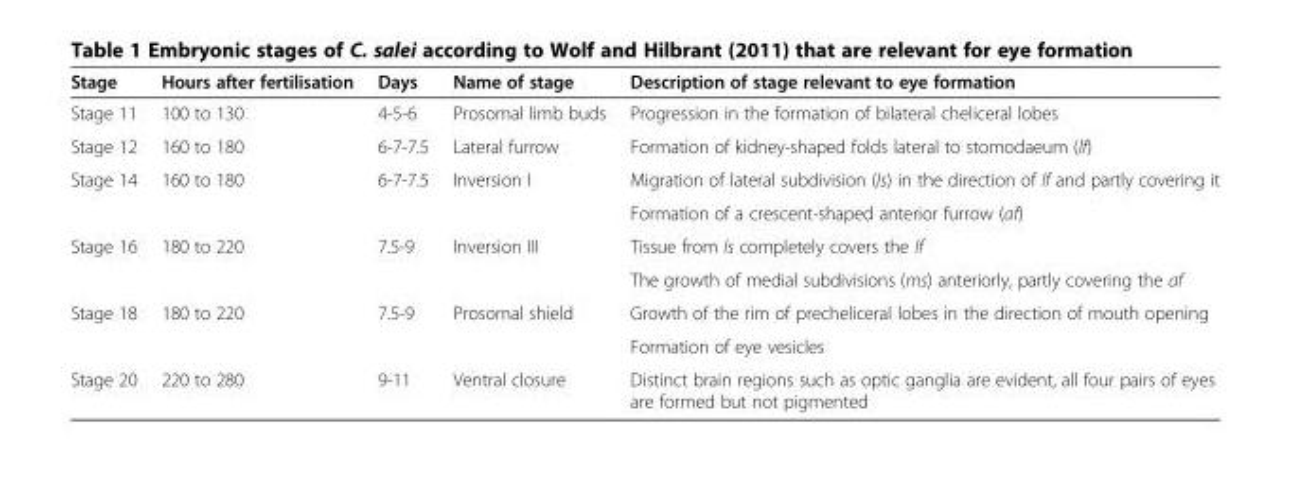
<table><thead><tr><td>Stage</td><td>Hours after fertilisation</td><td>Days</td><td>Name of stage</td><td>Description of stage relevant to eye formation</td></tr></thead><tbody><tr><td>Stage 11</td><td>100 to 130</td><td>4-5-6</td><td>Prosomal limb buds</td><td>Progression in the formation of bilateral cheliceral lobes</td></tr><tr><td>Stage 12</td><td>160 to 180</td><td>6-7-7.5</td><td>Lateral furrow</td><td>Formation of kidney-shaped folds lateral to stomodaeum (lf)</td></tr><tr><td rowspan="2">Stage 14</td><td>160 to 180</td><td>6-7-7.5</td><td>Inversion I</td><td>Migration of lateral subdivision (ls) in the direction of lf and partly covering it</td></tr><tr><td></td><td></td><td></td><td>Formation of a crescent-shaped anterior furrow (af)</td></tr><tr><td rowspan="2">Stage 16</td><td rowspan="2">180 to 220</td><td>7.5-9</td><td>Inversion III</td><td>Tissue from ls completely covers the lf</td></tr><tr><td></td><td></td><td>The growth of medial subdivisions (ms) anteriorly, partly covering the af</td></tr><tr><td rowspan="2">Stage 18</td><td rowspan="2">180 to 220</td><td>7.5-9</td><td>Prosomal shield</td><td>Growth of the rim of precheliceral lobes in the direction of mouth opening</td></tr><tr><td></td><td></td><td>Formation of eye vesicles</td></tr><tr><td>Stage 20</td><td>220 to 280</td><td>9-11</td><td>Ventral closure</td><td>Distinct brain regions such as optic ganglia are evident, all four pairs of eyes are formed but not pigmented</td></tr></tbody></table>